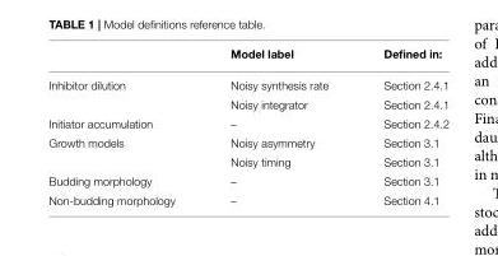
<table><thead><tr><td></td><td>Model label</td><td>Defined in:</td></tr></thead><tbody><tr><td rowspan="2">Inhibitor dilution</td><td>Noisy synthesis rate</td><td>Section 2.4.1</td></tr><tr><td>Noisy integrator</td><td>Section 2.4.1</td></tr><tr><td>Initiator accumulation</td><td>–</td><td>Section 2.4.2</td></tr><tr><td rowspan="2">Growth models</td><td>Noisy asymmetry</td><td>Section 3.1</td></tr><tr><td>Noisy timing</td><td>Section 3.1</td></tr><tr><td>Budding morphology</td><td>–</td><td>Section 3.1</td></tr><tr><td>Non-budding morphology</td><td>–</td><td>Section 4.1</td></tr></tbody></table>